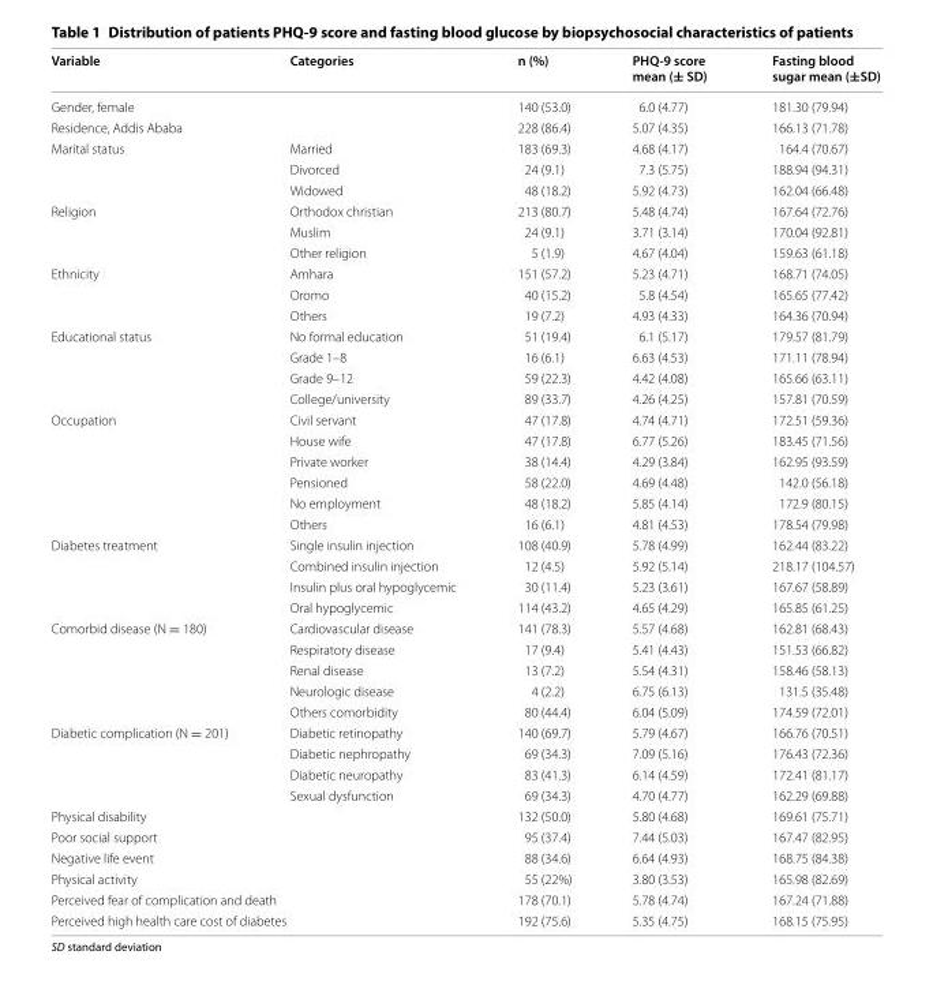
<table><thead><tr><td>Variable</td><td>Categories</td><td>n (%)</td><td>PHQ-9 score mean (± SD)</td><td>Fasting blood sugar mean (±SD)</td></tr></thead><tbody><tr><td colspan="2">Gender, female</td><td>140 (53.0)</td><td>6.0 (4.77)</td><td>181.30 (79.94)</td></tr><tr><td colspan="2">Residence, Addis Ababa</td><td>228 (86.4)</td><td>5.07 (4.35)</td><td>166.13 (71.78)</td></tr><tr><td rowspan="3">Marital status</td><td>Married</td><td>183 (69.3)</td><td>4.68 (4.17)</td><td>164.4 (70.67)</td></tr><tr><td>Divorced</td><td>24 (9.1)</td><td>7.3 (5.75)</td><td>188.94 (94.31)</td></tr><tr><td>Widowed</td><td>48 (18.2)</td><td>5.92 (4.73)</td><td>162.04 (66.48)</td></tr><tr><td rowspan="3">Religion</td><td>Orthodox christian</td><td>213 (80.7)</td><td>5.48 (4.74)</td><td>167.64 (72.76)</td></tr><tr><td>Muslim</td><td>24 (9.1)</td><td>3.71 (3.14)</td><td>170.04 (92.81)</td></tr><tr><td>Other religion</td><td>5 (1.9)</td><td>4.67 (4.04)</td><td>159.63 (61.18)</td></tr><tr><td rowspan="3">Ethnicity</td><td>Amhara</td><td>151 (57.2)</td><td>5.23 (4.71)</td><td>168.71 (74.05)</td></tr><tr><td>Oromo</td><td>40 (15.2)</td><td>5.8 (4.54)</td><td>165.65 (77.42)</td></tr><tr><td>Others</td><td>19 (7.2)</td><td>4.93 (4.33)</td><td>164.36 (70.94)</td></tr><tr><td rowspan="4">Educational status</td><td>No formal education</td><td>51 (19.4)</td><td>6.1 (5.17)</td><td>179.57 (81.79)</td></tr><tr><td>Grade 1–8</td><td>16 (6.1)</td><td>6.63 (4.53)</td><td>171.11 (78.94)</td></tr><tr><td>Grade 9–12</td><td>59 (22.3)</td><td>4.42 (4.08)</td><td>165.66 (63.11)</td></tr><tr><td>College/university</td><td>89 (33.7)</td><td>4.26 (4.25)</td><td>157.81 (70.59)</td></tr><tr><td rowspan="6">Occupation</td><td>Civil servant</td><td>47 (17.8)</td><td>4.74 (4.71)</td><td>172.51 (59.36)</td></tr><tr><td>House wife</td><td>47 (17.8)</td><td>6.77 (5.26)</td><td>183.45 (71.56)</td></tr><tr><td>Private worker</td><td>38 (14.4)</td><td>4.29 (3.84)</td><td>162.95 (93.59)</td></tr><tr><td>Pensioned</td><td>58 (22.0)</td><td>4.69 (4.48)</td><td>142.0 (56.18)</td></tr><tr><td>No employment</td><td>48 (18.2)</td><td>5.85 (4.14)</td><td>172.9 (80.15)</td></tr><tr><td>Others</td><td>16 (6.1)</td><td>4.81 (4.53)</td><td>178.54 (79.98)</td></tr><tr><td rowspan="4">Diabetes treatment</td><td>Single insulin injection</td><td>108 (40.9)</td><td>5.78 (4.99)</td><td>162.44 (83.22)</td></tr><tr><td>Combined insulin injection</td><td>12 (4.5)</td><td>5.92 (5.14)</td><td>218.17 (104.57)</td></tr><tr><td>Insulin plus oral hypoglycemic</td><td>30 (11.4)</td><td>5.23 (3.61)</td><td>167.67 (58.89)</td></tr><tr><td>Oral hypoglycemic</td><td>114 (43.2)</td><td>4.65 (4.29)</td><td>165.85 (61.25)</td></tr><tr><td rowspan="5">Comorbid disease (N = 180)</td><td>Cardiovascular disease</td><td>141 (78.3)</td><td>5.57 (4.68)</td><td>162.81 (68.43)</td></tr><tr><td>Respiratory disease</td><td>17 (9.4)</td><td>5.41 (4.43)</td><td>151.53 (66.82)</td></tr><tr><td>Renal disease</td><td>13 (7.2)</td><td>5.54 (4.31)</td><td>158.46 (58.13)</td></tr><tr><td>Neurologic disease</td><td>4 (2.2)</td><td>6.75 (6.13)</td><td>131.5 (35.48)</td></tr><tr><td>Others comorbidity</td><td>80 (44.4)</td><td>6.04 (5.09)</td><td>174.59 (72.01)</td></tr><tr><td rowspan="4">Diabetic complication (N = 201)</td><td>Diabetic retinopathy</td><td>140 (69.7)</td><td>5.79 (4.67)</td><td>166.76 (70.51)</td></tr><tr><td>Diabetic nephropathy</td><td>69 (34.3)</td><td>7.09 (5.16)</td><td>176.43 (72.36)</td></tr><tr><td>Diabetic neuropathy</td><td>83 (41.3)</td><td>6.14 (4.59)</td><td>172.41 (81.17)</td></tr><tr><td>Sexual dysfunction</td><td>69 (34.3)</td><td>4.70 (4.77)</td><td>162.29 (69.88)</td></tr><tr><td colspan="2">Physical disability</td><td>132 (50.0)</td><td>5.80 (4.68)</td><td>169.61 (75.71)</td></tr><tr><td colspan="2">Poor social support</td><td>95 (37.4)</td><td>7.44 (5.03)</td><td>167.47 (82.95)</td></tr><tr><td colspan="2">Negative life event</td><td>88 (34.6)</td><td>6.64 (4.93)</td><td>168.75 (84.38)</td></tr><tr><td colspan="2">Physical activity</td><td>55 (22%)</td><td>3.80 (3.53)</td><td>165.98 (82.69)</td></tr><tr><td colspan="2">Perceived fear of complication and death</td><td>178 (70.1)</td><td>5.78 (4.74)</td><td>167.24 (71.88)</td></tr><tr><td colspan="2">Perceived high health care cost of diabetes</td><td>192 (75.6)</td><td>5.35 (4.75)</td><td>168.15 (75.95)</td></tr></tbody></table>